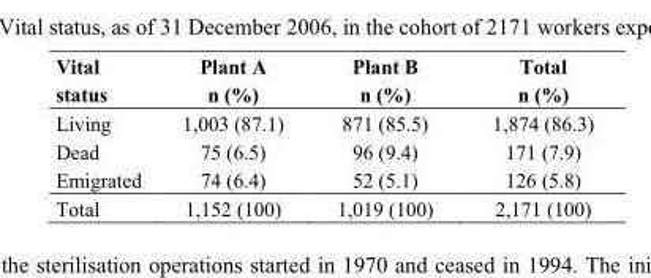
<table><thead><tr><td>Vital status</td><td>Plant A n (%)</td><td>Plant B n (%)</td><td>Total n (%)</td></tr></thead><tbody><tr><td>Living</td><td>1,003 (87.1)</td><td>871 (85.5)</td><td>1,874 (86.3)</td></tr><tr><td>Dead</td><td>75 (6.5)</td><td>96 (9.4)</td><td>171 (7.9)</td></tr><tr><td>Emigrated</td><td>74 (6.4)</td><td>52 (5.1)</td><td>126 (5.8)</td></tr><tr><td>Total</td><td>1,152 (100)</td><td>1,019 (100)</td><td>2,171 (100)</td></tr></tbody></table>